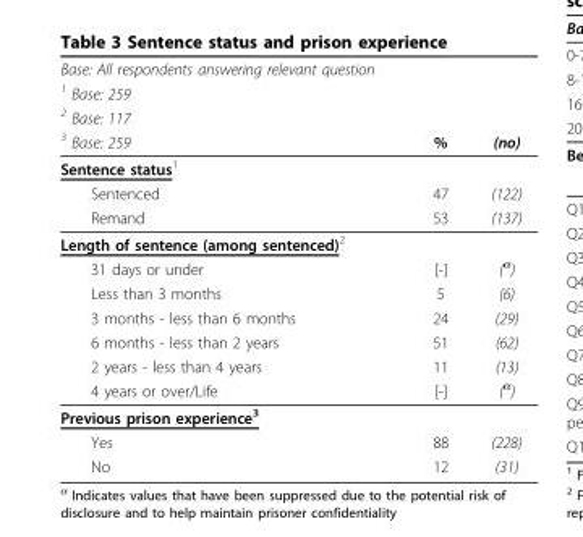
<table><thead><tr><td rowspan="4">Base: All respondents answering relevant question 1 Base: 259 2 Base: 117 3 Base: 259</td><td rowspan="4">%</td><td rowspan="4">(no)</td></tr><tr></tr><tr></tr><tr></tr></thead><tbody><tr><td colspan="3">Sentence status1</td></tr><tr><td>Sentenced</td><td>47</td><td>(122)</td></tr><tr><td>Remand</td><td>53</td><td>(137)</td></tr><tr><td colspan="3">Length of sentence (among sentenced)<sup>2</sup></td></tr><tr><td>31 days or under</td><td>[-]</td><td>(<sup>α</sup>)</td></tr><tr><td>Less than 3 months</td><td>5</td><td>(6)</td></tr><tr><td>3 months - less than 6 months</td><td>24</td><td>(29)</td></tr><tr><td>6 months - less than 2 years</td><td>51</td><td>(62)</td></tr><tr><td>2 years - less than 4 years</td><td>11</td><td>(13)</td></tr><tr><td>4 years or over/Life</td><td>[-]</td><td>(<sup>α</sup>)</td></tr><tr><td colspan="3">Previous prison experience<sup>3</sup></td></tr><tr><td>Yes</td><td>88</td><td>(228)</td></tr><tr><td>No</td><td>12</td><td>(31)</td></tr></tbody></table>